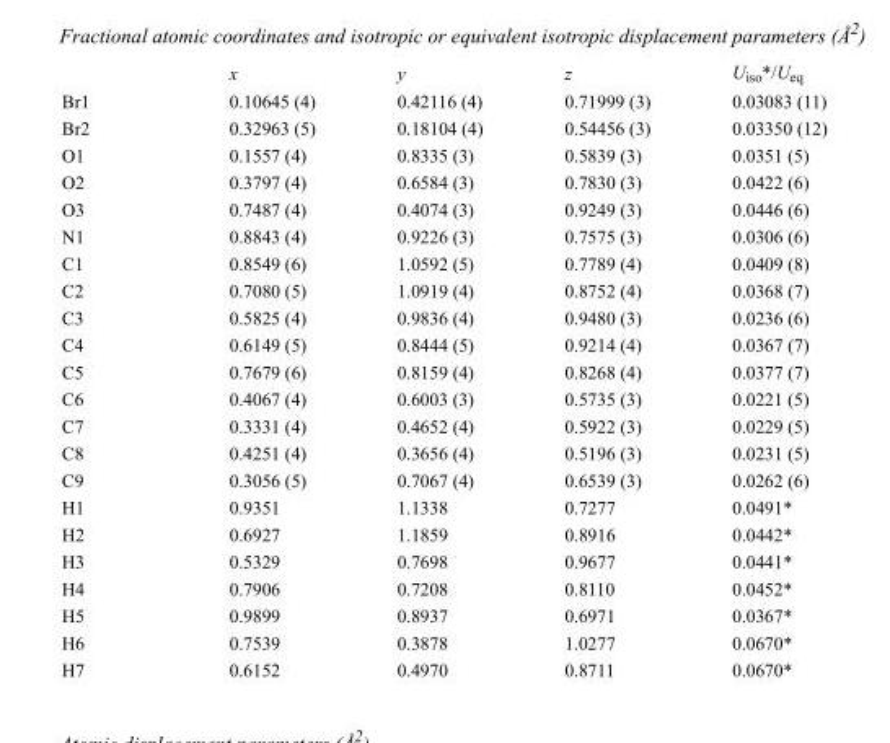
<table><thead><tr><td></td><td>x</td><td>y</td><td>z</td><td>U<sub>iso</sub>*/U<sub>eq</sub></td></tr></thead><tbody><tr><td>Br1</td><td>0.10645 (4)</td><td>0.42116 (4)</td><td>0.71999 (3)</td><td>0.03083 (11)</td></tr><tr><td>Br2</td><td>0.32963 (5)</td><td>0.18104 (4)</td><td>0.54456 (3)</td><td>0.03350 (12)</td></tr><tr><td>O1</td><td>0.1557 (4)</td><td>0.8335 (3)</td><td>0.5839 (3)</td><td>0.0351 (5)</td></tr><tr><td>O2</td><td>0.3797 (4)</td><td>0.6584 (3)</td><td>0.7830 (3)</td><td>0.0422 (6)</td></tr><tr><td>O3</td><td>0.7487 (4)</td><td>0.4074 (3)</td><td>0.9249 (3)</td><td>0.0446 (6)</td></tr><tr><td>N1</td><td>0.8843 (4)</td><td>0.9226 (3)</td><td>0.7575 (3)</td><td>0.0306 (6)</td></tr><tr><td>C1</td><td>0.8549 (6)</td><td>1.0592 (5)</td><td>0.7789 (4)</td><td>0.0409 (8)</td></tr><tr><td>C2</td><td>0.7080 (5)</td><td>1.0919 (4)</td><td>0.8752 (4)</td><td>0.0368 (7)</td></tr><tr><td>C3</td><td>0.5825 (4)</td><td>0.9836 (4)</td><td>0.9480 (3)</td><td>0.0236 (6)</td></tr><tr><td>C4</td><td>0.6149 (5)</td><td>0.8444 (5)</td><td>0.9214 (4)</td><td>0.0367 (7)</td></tr><tr><td>C5</td><td>0.7679 (6)</td><td>0.8159 (4)</td><td>0.8268 (4)</td><td>0.0377 (7)</td></tr><tr><td>C6</td><td>0.4067 (4)</td><td>0.6003 (3)</td><td>0.5735 (3)</td><td>0.0221 (5)</td></tr><tr><td>C7</td><td>0.3331 (4)</td><td>0.4652 (4)</td><td>0.5922 (3)</td><td>0.0229 (5)</td></tr><tr><td>C8</td><td>0.4251 (4)</td><td>0.3656 (4)</td><td>0.5196 (3)</td><td>0.0231 (5)</td></tr><tr><td>C9</td><td>0.3056 (5)</td><td>0.7067 (4)</td><td>0.6539 (3)</td><td>0.0262 (6)</td></tr><tr><td>H1</td><td>0.9351</td><td>1.1338</td><td>0.7277</td><td>0.0491*</td></tr><tr><td>H2</td><td>0.6927</td><td>1.1859</td><td>0.8916</td><td>0.0442*</td></tr><tr><td>H3</td><td>0.5329</td><td>0.7698</td><td>0.9677</td><td>0.0441*</td></tr><tr><td>H4</td><td>0.7906</td><td>0.7208</td><td>0.8110</td><td>0.0452*</td></tr><tr><td>H5</td><td>0.9899</td><td>0.8937</td><td>0.6971</td><td>0.0367*</td></tr><tr><td>H6</td><td>0.7539</td><td>0.3878</td><td>1.0277</td><td>0.0670*</td></tr><tr><td>H7</td><td>0.6152</td><td>0.4970</td><td>0.8711</td><td>0.0670*</td></tr></tbody></table>